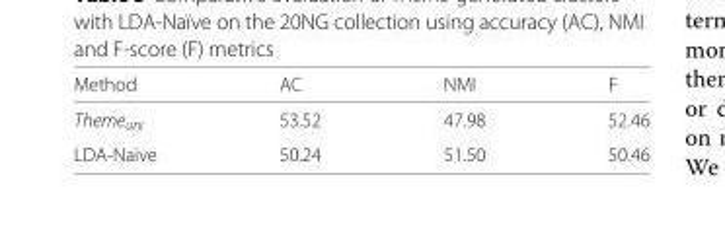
<table><thead><tr><td>Method</td><td>AC</td><td>NMI</td><td>F</td></tr></thead><tbody><tr><td>Theme<sub>uni</sub></td><td>53.52</td><td>47.98</td><td>52.46</td></tr><tr><td>LDA-Naïve</td><td>50.24</td><td>51.50</td><td>50.46</td></tr></tbody></table>